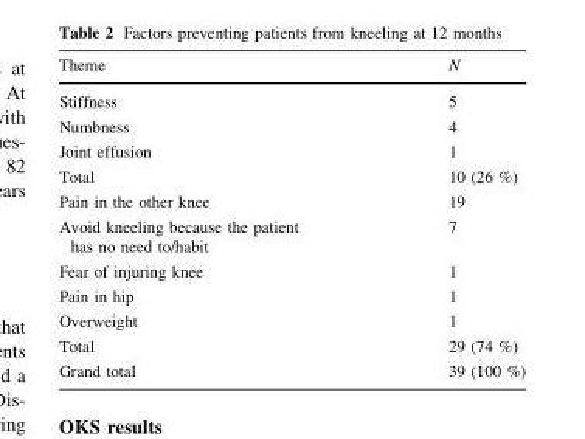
<table><thead><tr><td>Theme</td><td>N</td></tr></thead><tbody><tr><td>Stiffness</td><td>5</td></tr><tr><td>Numbness</td><td>4</td></tr><tr><td>Joint effusion</td><td>1</td></tr><tr><td>Total</td><td>10 (26 %)</td></tr><tr><td>Pain in the other knee</td><td>19</td></tr><tr><td>Avoid kneeling because the patient has no need to/habit</td><td>7</td></tr><tr><td>Fear of injuring knee</td><td>1</td></tr><tr><td>Pain in hip</td><td>1</td></tr><tr><td>Overweight</td><td>1</td></tr><tr><td>Total</td><td>29 (74 %)</td></tr><tr><td>Grand total</td><td>39 (100 %)</td></tr></tbody></table>